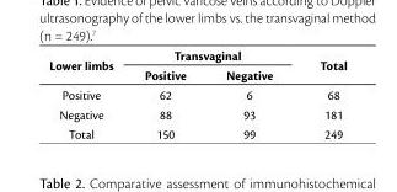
<table><thead><tr><td rowspan="2">Lower limbs</td><td colspan="2">Transvaginal</td><td rowspan="2">Total</td></tr><tr><td>Positive</td><td>Negative</td></tr></thead><tbody><tr><td>Positive</td><td>62</td><td>6</td><td>68</td></tr><tr><td>Negative</td><td>88</td><td>93</td><td>181</td></tr><tr><td>Total</td><td>150</td><td>99</td><td>249</td></tr></tbody></table>